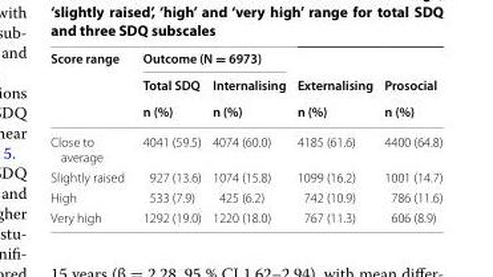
<table><thead><tr><td rowspan="3">Score range</td><td colspan="2">Outcome (N = 6973)</td><td rowspan="3">Externalising n (%)</td><td rowspan="3">Prosocial n (%)</td></tr><tr><td rowspan="2">Total SDQ n (%)</td><td rowspan="2">Internalising n (%)</td></tr><tr></tr></thead><tbody><tr><td>Close to average</td><td>4041 (59.5)</td><td>4074 (60.0)</td><td>4185 (61.6)</td><td>4400 (64.8)</td></tr><tr><td>Slightly raised</td><td>927 (13.6)</td><td>1074 (15.8)</td><td>1099 (16.2)</td><td>1001 (14.7)</td></tr><tr><td>High</td><td>533 (7.9)</td><td>425 (6.2)</td><td>742 (10.9)</td><td>786 (11.6)</td></tr><tr><td>Very high</td><td>1292 (19.0)</td><td>1220 (18.0)</td><td>767 (11.3)</td><td>606 (8.9)</td></tr></tbody></table>